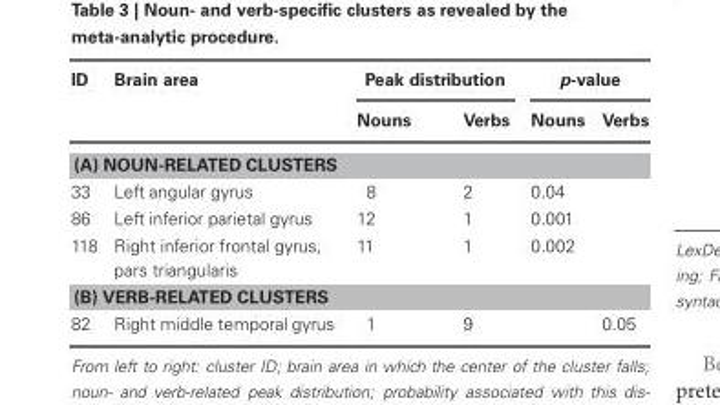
<table><thead><tr><td rowspan="2">ID</td><td rowspan="2">Brain area</td><td colspan="2">Peak distribution</td><td colspan="2">p-value</td></tr><tr><td>Nouns</td><td>Verbs</td><td>Nouns</td><td>Verbs</td></tr></thead><tbody><tr><td colspan="6">(A) NOUN-RELATED CLUSTERS</td></tr><tr><td>33</td><td>Left angular gyrus</td><td>8</td><td>2</td><td>0.04</td><td></td></tr><tr><td>86</td><td>Left inferior parietal gyrus</td><td>12</td><td>1</td><td>0.001</td><td></td></tr><tr><td>118</td><td>Right inferior frontal gyrus, pars triangularis</td><td>11</td><td>1</td><td>0.002</td><td></td></tr><tr><td colspan="6">(B) VERB-RELATED CLUSTERS</td></tr><tr><td>82</td><td>Right middle temporal gyrus</td><td>1</td><td>9</td><td></td><td>0.05</td></tr></tbody></table>